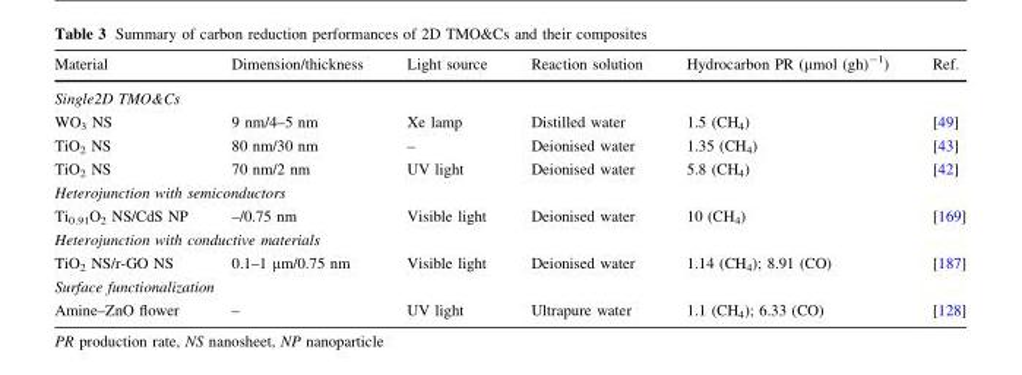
<table><thead><tr><td>Material</td><td>Dimension/thickness</td><td>Light source</td><td>Reaction solution</td><td>Hydrocarbon PR (µmol (gh)<sup>-1</sup>)</td><td>Ref.</td></tr></thead><tbody><tr><td colspan="6">Single2D TMO&amp;Cs</td></tr><tr><td>WO<sub>3</sub> NS</td><td>9 nm/4–5 nm</td><td>Xe lamp</td><td>Distilled water</td><td>1.5 (CH<sub>4</sub>)</td><td>[49]</td></tr><tr><td>TiO<sub>2</sub> NS</td><td>80 nm/30 nm</td><td>–</td><td>Deionised water</td><td>1.35 (CH<sub>4</sub>)</td><td>[43]</td></tr><tr><td>TiO<sub>2</sub> NS</td><td>70 nm/2 nm</td><td>UV light</td><td>Deionised water</td><td>5.8 (CH<sub>4</sub>)</td><td>[42]</td></tr><tr><td colspan="6">Heterojunction with semiconductors</td></tr><tr><td>Ti<sub>0.91</sub>O<sub>2</sub> NS/CdS NP</td><td>–/0.75 nm</td><td>Visible light</td><td>Deionised water</td><td>10 (CH<sub>4</sub>)</td><td>[169]</td></tr><tr><td colspan="6">Heterojunction with conductive materials</td></tr><tr><td>TiO<sub>2</sub> NS/r-GO NS</td><td>0.1–1 μm/0.75 nm</td><td>Visible light</td><td>Deionised water</td><td>1.14 (CH<sub>4</sub>); 8.91 (CO)</td><td>[187]</td></tr><tr><td colspan="6">Surface functionalization</td></tr><tr><td>Amine–ZnO flower</td><td>–</td><td>UV light</td><td>Ultrapure water</td><td>1.1 (CH<sub>4</sub>); 6.33 (CO)</td><td>[128]</td></tr></tbody></table>